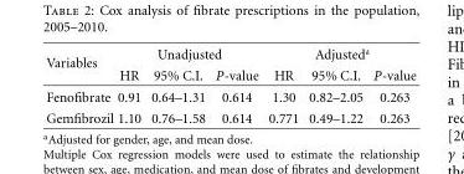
<table><thead><tr><td rowspan="2">Variables</td><td colspan="3">Unadjusted</td><td colspan="3">Adjusted<sup>a</sup></td></tr><tr><td>HR</td><td>95% C.I.</td><td>P-value</td><td>HR</td><td>95% C.I.</td><td>P-value</td></tr></thead><tbody><tr><td>Fenofibrate</td><td>0.91</td><td>0.64–1.31</td><td>0.614</td><td>1.30</td><td>0.82–2.05</td><td>0.263</td></tr><tr><td>Gemfibrozil</td><td>1.10</td><td>0.76–1.58</td><td>0.614</td><td>0.771</td><td>0.49–1.22</td><td>0.263</td></tr></tbody></table>